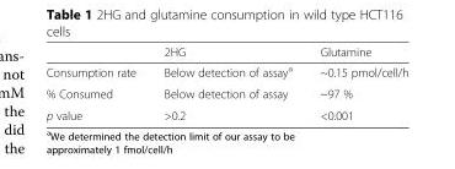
<table><thead><tr><td></td><td>2HG</td><td>Glutamine</td></tr></thead><tbody><tr><td>Consumption rate</td><td>Below detection of assay<sup>a</sup></td><td>~0.15 pmol/cell/h</td></tr><tr><td>% Consumed</td><td>Below detection of assay</td><td>~97 %</td></tr><tr><td>p value</td><td>&gt;0.2</td><td>&lt;0.001</td></tr></tbody></table>